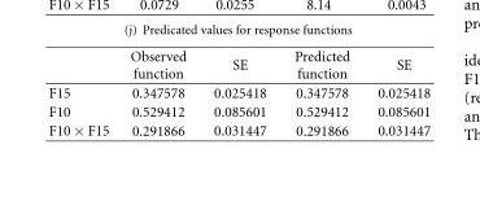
<table><thead><tr><td></td><td>Observed function</td><td>SE</td><td>Predicted function</td><td>SE</td></tr></thead><tbody><tr><td>F15</td><td>0.347578</td><td>0.025418</td><td>0.347578</td><td>0.025418</td></tr><tr><td>F10</td><td>0.529412</td><td>0.085601</td><td>0.529412</td><td>0.085601</td></tr><tr><td>F10 × F15</td><td>0.291866</td><td>0.031447</td><td>0.291866</td><td>0.031447</td></tr></tbody></table>